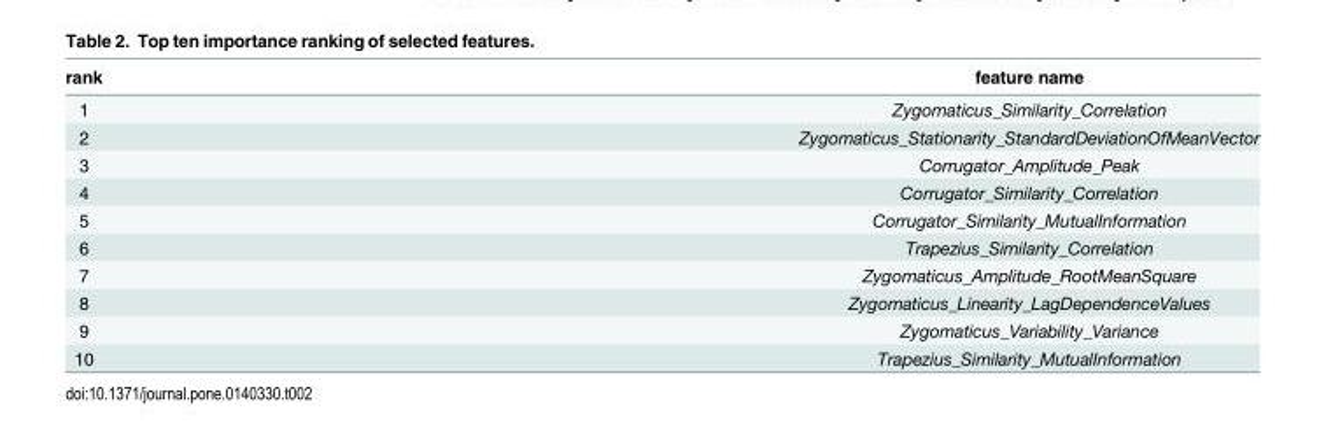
<table><thead><tr><td>rank</td><td>feature name</td></tr></thead><tbody><tr><td>1</td><td>Zygomaticus_Similarity_Correlation</td></tr><tr><td>2</td><td>Zygomaticus_Stationarity_StandardDeviationOfMeanVector</td></tr><tr><td>3</td><td>Corrugator_Amplitude_Peak</td></tr><tr><td>4</td><td>Corrugator_Similarity_Correlation</td></tr><tr><td>5</td><td>Corrugator_Similarity_MutualInformation</td></tr><tr><td>6</td><td>Trapezius_Similarity_Correlation</td></tr><tr><td>7</td><td>Zygomaticus_Amplitude_RootMeanSquare</td></tr><tr><td>8</td><td>Zygomaticus_Linearity_LagDependenceValues</td></tr><tr><td>9</td><td>Zygomaticus_Variability_Variance</td></tr><tr><td>10</td><td>Trapezius_Similarity_MutualInformation</td></tr></tbody></table>